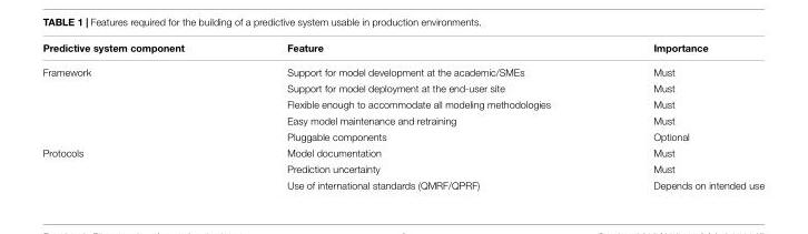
<table><thead><tr><td>Predictive system component</td><td>Feature</td><td>Importance</td></tr></thead><tbody><tr><td rowspan="5">Framework</td><td>Support for model development at the academic/SMEs</td><td>Must</td></tr><tr><td>Support for model deployment at the end-user site</td><td>Must</td></tr><tr><td>Flexible enough to accommodate all modeling methodologies</td><td>Must</td></tr><tr><td>Easy model maintenance and retraining</td><td>Must</td></tr><tr><td>Pluggable components</td><td>Optional</td></tr><tr><td rowspan="3">Protocols</td><td>Model documentation</td><td>Must</td></tr><tr><td>Prediction uncertainty</td><td>Must</td></tr><tr><td>Use of international standards (QMRF/QPRF)</td><td>Depends on intended use</td></tr></tbody></table>